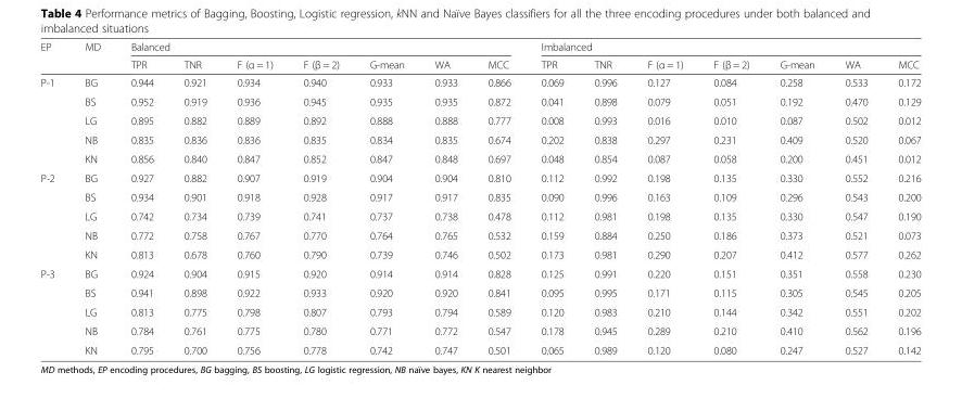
<table><thead><tr><td rowspan="2">EP</td><td rowspan="2">MD</td><td colspan="7">Balanced</td><td colspan="7">Imbalanced</td></tr><tr><td>TPR</td><td>TNR</td><td>F (α = 1)</td><td>F (β = 2)</td><td>G-mean</td><td>WA</td><td>MCC</td><td>TPR</td><td>TNR</td><td>F (α = 1)</td><td>F (β = 2)</td><td>G-mean</td><td>WA</td><td>MCC</td></tr></thead><tbody><tr><td rowspan="5">P-1</td><td>BG</td><td>0.944</td><td>0.921</td><td>0.934</td><td>0.940</td><td>0.933</td><td>0.933</td><td>0.866</td><td>0.069</td><td>0.996</td><td>0.127</td><td>0.084</td><td>0.258</td><td>0.533</td><td>0.172</td></tr><tr><td>BS</td><td>0.952</td><td>0.919</td><td>0.936</td><td>0.945</td><td>0.935</td><td>0.935</td><td>0.872</td><td>0.041</td><td>0.898</td><td>0.079</td><td>0.051</td><td>0.192</td><td>0.470</td><td>0.129</td></tr><tr><td>LG</td><td>0.895</td><td>0.882</td><td>0.889</td><td>0.892</td><td>0.888</td><td>0.888</td><td>0.777</td><td>0.008</td><td>0.993</td><td>0.016</td><td>0.010</td><td>0.087</td><td>0.502</td><td>0.012</td></tr><tr><td>NB</td><td>0.835</td><td>0.836</td><td>0.836</td><td>0.835</td><td>0.834</td><td>0.835</td><td>0.674</td><td>0.202</td><td>0.838</td><td>0.297</td><td>0.231</td><td>0.409</td><td>0.520</td><td>0.067</td></tr><tr><td>KN</td><td>0.856</td><td>0.840</td><td>0.847</td><td>0.852</td><td>0.847</td><td>0.848</td><td>0.697</td><td>0.048</td><td>0.854</td><td>0.087</td><td>0.058</td><td>0.200</td><td>0.451</td><td>0.012</td></tr><tr><td rowspan="5">P-2</td><td>BG</td><td>0.927</td><td>0.882</td><td>0.907</td><td>0.919</td><td>0.904</td><td>0.904</td><td>0.810</td><td>0.112</td><td>0.992</td><td>0.198</td><td>0.135</td><td>0.330</td><td>0.552</td><td>0.216</td></tr><tr><td>BS</td><td>0.934</td><td>0.901</td><td>0.918</td><td>0.928</td><td>0.917</td><td>0.917</td><td>0.835</td><td>0.090</td><td>0.996</td><td>0.163</td><td>0.109</td><td>0.296</td><td>0.543</td><td>0.200</td></tr><tr><td>LG</td><td>0.742</td><td>0.734</td><td>0.739</td><td>0.741</td><td>0.737</td><td>0.738</td><td>0.478</td><td>0.112</td><td>0.981</td><td>0.198</td><td>0.135</td><td>0.330</td><td>0.547</td><td>0.190</td></tr><tr><td>NB</td><td>0.772</td><td>0.758</td><td>0.767</td><td>0.770</td><td>0.764</td><td>0.765</td><td>0.532</td><td>0.159</td><td>0.884</td><td>0.250</td><td>0.186</td><td>0.373</td><td>0.521</td><td>0.073</td></tr><tr><td>KN</td><td>0.813</td><td>0.678</td><td>0.760</td><td>0.790</td><td>0.739</td><td>0.746</td><td>0.502</td><td>0.173</td><td>0.981</td><td>0.290</td><td>0.207</td><td>0.412</td><td>0.577</td><td>0.262</td></tr><tr><td rowspan="5">P-3</td><td>BG</td><td>0.924</td><td>0.904</td><td>0.915</td><td>0.920</td><td>0.914</td><td>0.914</td><td>0.828</td><td>0.125</td><td>0.991</td><td>0.220</td><td>0.151</td><td>0.351</td><td>0.558</td><td>0.230</td></tr><tr><td>BS</td><td>0.941</td><td>0.898</td><td>0.922</td><td>0.933</td><td>0.920</td><td>0.920</td><td>0.841</td><td>0.095</td><td>0.995</td><td>0.171</td><td>0.115</td><td>0.305</td><td>0.545</td><td>0.205</td></tr><tr><td>LG</td><td>0.813</td><td>0.775</td><td>0.798</td><td>0.807</td><td>0.793</td><td>0.794</td><td>0.589</td><td>0.120</td><td>0.983</td><td>0.210</td><td>0.144</td><td>0.342</td><td>0.551</td><td>0.202</td></tr><tr><td>NB</td><td>0.784</td><td>0.761</td><td>0.775</td><td>0.780</td><td>0.771</td><td>0.772</td><td>0.547</td><td>0.178</td><td>0.945</td><td>0.289</td><td>0.210</td><td>0.410</td><td>0.562</td><td>0.196</td></tr><tr><td>KN</td><td>0.795</td><td>0.700</td><td>0.756</td><td>0.778</td><td>0.742</td><td>0.747</td><td>0.501</td><td>0.065</td><td>0.989</td><td>0.120</td><td>0.080</td><td>0.247</td><td>0.527</td><td>0.142</td></tr></tbody></table>